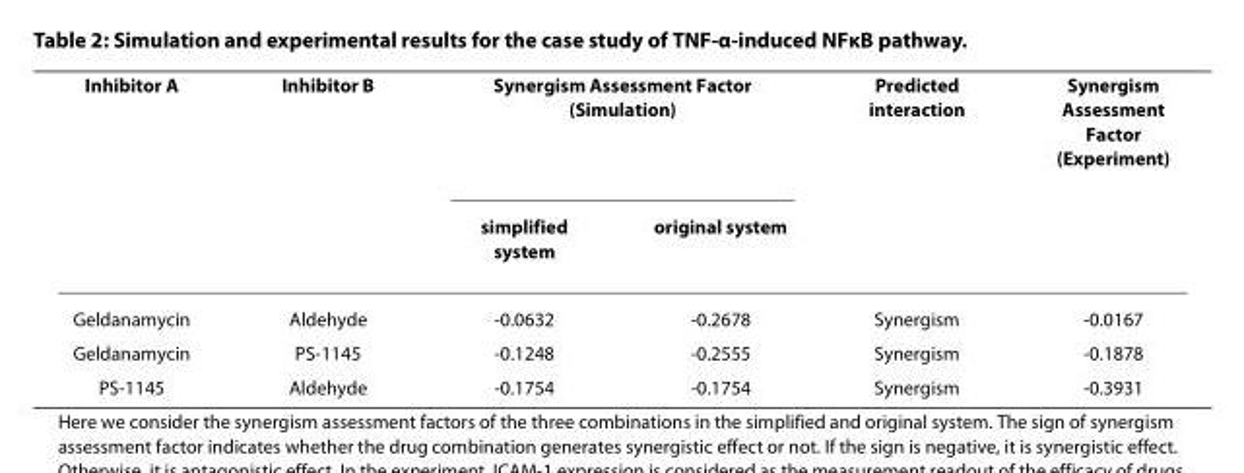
<table><thead><tr><td rowspan="2">Inhibitor A</td><td rowspan="2">Inhibitor B</td><td colspan="2">Synergism Assessment Factor (Simulation)</td><td rowspan="2">Predicted interaction</td><td rowspan="2">Synergism Assessment Factor (Experiment)</td></tr><tr><td>simplified system</td><td>original system</td></tr></thead><tbody><tr><td>Geldanamycin</td><td>Aldehyde</td><td>-0.0632</td><td>-0.2678</td><td>Synergism</td><td>-0.0167</td></tr><tr><td>Geldanamycin</td><td>PS-1145</td><td>-0.1248</td><td>-0.2555</td><td>Synergism</td><td>-0.1878</td></tr><tr><td>PS-1145</td><td>Aldehyde</td><td>-0.1754</td><td>-0.1754</td><td>Synergism</td><td>-0.3931</td></tr></tbody></table>